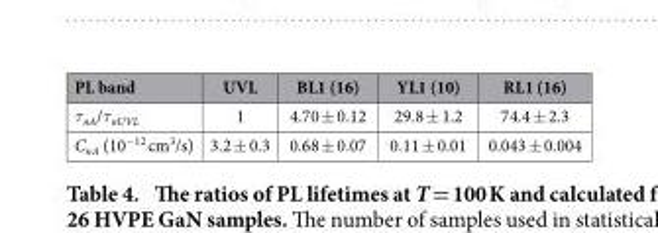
<table><thead><tr><td>PL band</td><td>UVL</td><td>BL1 (16)</td><td>YL1 (10)</td><td>RL1 (16)</td></tr></thead><tbody><tr><td>τ<sub>nA</sub>/τ<sub>nUVL</sub></td><td>1</td><td>4.70 ± 0.12</td><td>29.8 ± 1.2</td><td>74.4 ± 2.3</td></tr><tr><td>C<sub>nA</sub> (10<sup>−12</sup> cm<sup>3</sup>/s)</td><td>3.2 ± 0.3</td><td>0.68 ± 0.07</td><td>0.11 ± 0.01</td><td>0.043 ± 0.004</td></tr></tbody></table>